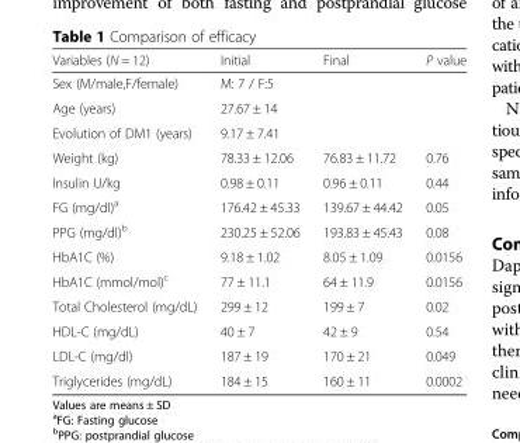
<table><thead><tr><td>Variables (N = 12)</td><td>Initial</td><td>Final</td><td>P value</td></tr></thead><tbody><tr><td>Sex (M/male,F/female)</td><td>M: 7 / F:5</td><td></td><td></td></tr><tr><td>Age (years)</td><td>27.67 ± 14</td><td></td><td></td></tr><tr><td>Evolution of DM1 (years)</td><td>9.17 ± 7.41</td><td></td><td></td></tr><tr><td>Weight (kg)</td><td>78.33 ± 12.06</td><td>76.83 ± 11.72</td><td>0.76</td></tr><tr><td>Insulin U/kg</td><td>0.98 ± 0.11</td><td>0.96 ± 0.11</td><td>0.44</td></tr><tr><td>FG (mg/dl)<sup>a</sup></td><td>176.42 ± 45.33</td><td>139.67 ± 44.42</td><td>0.05</td></tr><tr><td>PPG (mg/dl)<sup>b</sup></td><td>230.25 ± 52.06</td><td>193.83 ± 45.43</td><td>0.08</td></tr><tr><td>HbA1C (%)</td><td>9.18 ± 1.02</td><td>8.05 ± 1.09</td><td>0.0156</td></tr><tr><td>HbA1C (mmol/mol)<sup>c</sup></td><td>77 ± 11.1</td><td>64 ± 11.9</td><td>0.0156</td></tr><tr><td>Total Cholesterol (mg/dL)</td><td>299 ± 12</td><td>199 ± 7</td><td>0.02</td></tr><tr><td>HDL-C (mg/dL)</td><td>40 ± 7</td><td>42 ± 9</td><td>0.54</td></tr><tr><td>LDL-C (mg/dl)</td><td>187 ± 19</td><td>170 ± 21</td><td>0.049</td></tr><tr><td>Triglycerides (mg/dL)</td><td>184 ± 15</td><td>160 ± 11</td><td>0.0002</td></tr></tbody></table>